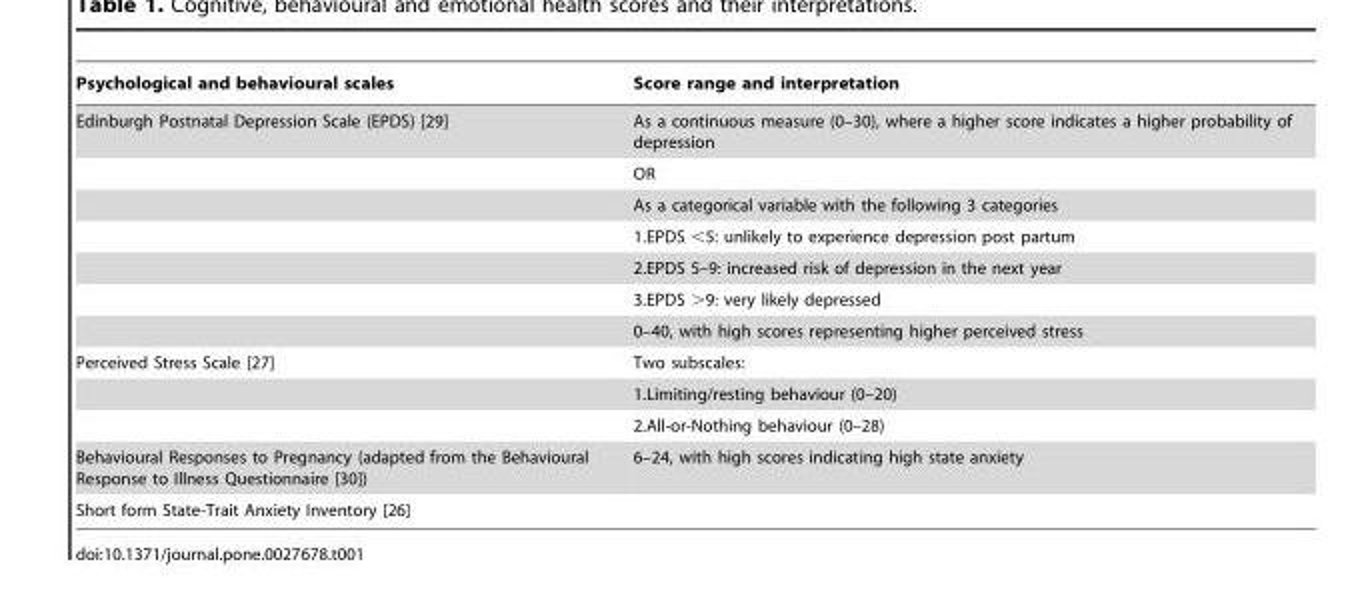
<table><thead><tr><td>Psychological and behavioural scales</td><td>Score range and interpretation</td></tr></thead><tbody><tr><td rowspan="7">Edinburgh Postnatal Depression Scale (EPDS) [29]</td><td>As a continuous measure (0–30), where a higher score indicates a higher probability of depression</td></tr><tr><td>OR</td></tr><tr><td>As a categorical variable with the following 3 categories</td></tr><tr><td>1.EPDS &lt;5: unlikely to experience depression post partum</td></tr><tr><td>2.EPDS 5–9: increased risk of depression in the next year</td></tr><tr><td>3.EPDS &gt;9: very likely depressed</td></tr><tr><td>0–40, with high scores representing higher perceived stress</td></tr><tr><td rowspan="3">Perceived Stress Scale [27]</td><td>Two subscales:</td></tr><tr><td>1.Limiting/resting behaviour (0–20)</td></tr><tr><td>2.All-or-Nothing behaviour (0–28)</td></tr><tr><td>Behavioural Responses to Pregnancy (adapted from the Behavioural Response to Illness Questionnaire [30])</td><td>6–24, with high scores indicating high state anxiety</td></tr><tr><td>Short form State-Trait Anxiety Inventory [26]</td><td></td></tr></tbody></table>